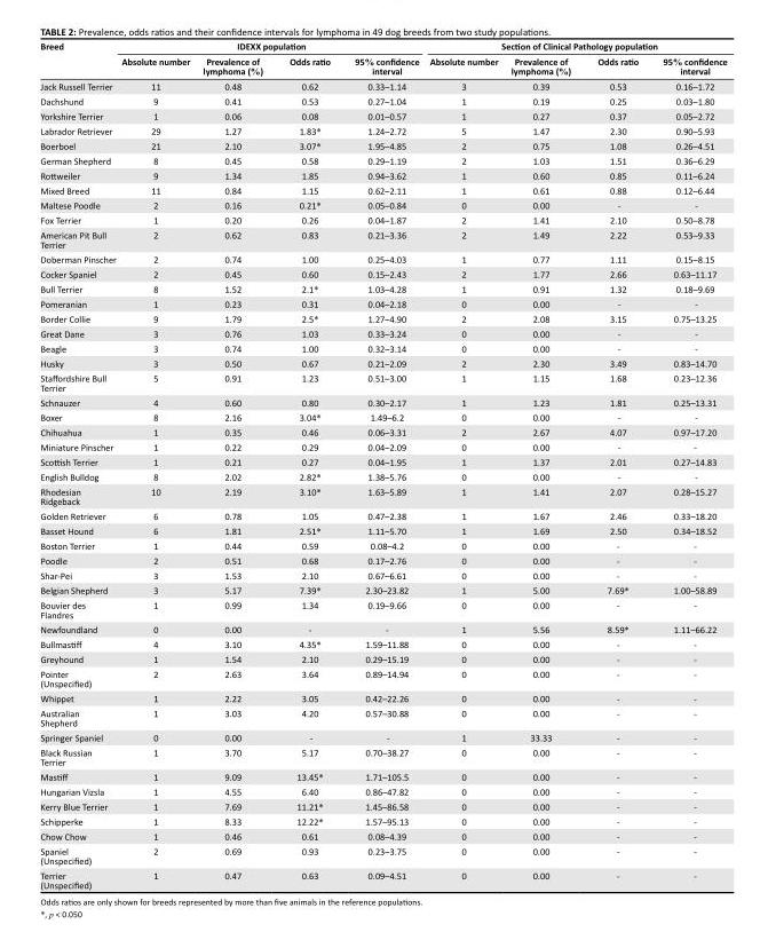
<table><thead><tr><td rowspan="2">Breed</td><td colspan="4">IDEXX population</td><td colspan="4">Section of Clinical Pathology population</td></tr><tr><td>Absolute number</td><td>Prevalence of lymphoma (%)</td><td>Odds ratio</td><td>95% confidence interval</td><td>Absolute number</td><td>Prevalence of lymphoma (%)</td><td>Odds ratio</td><td>95% confidence interval</td></tr></thead><tbody><tr><td>Jack Russell Terrier</td><td>11</td><td>0.48</td><td>0.62</td><td>0.33–1.14</td><td>3</td><td>0.39</td><td>0.53</td><td>0.16–1.72</td></tr><tr><td>Dachshund</td><td>9</td><td>0.41</td><td>0.53</td><td>0.27–1.04</td><td>1</td><td>0.19</td><td>0.25</td><td>0.03–1.80</td></tr><tr><td>Yorkshire Terrier</td><td>1</td><td>0.06</td><td>0.08</td><td>0.01–0.57</td><td>1</td><td>0.27</td><td>0.37</td><td>0.05–2.72</td></tr><tr><td>Labrador Retriever</td><td>29</td><td>1.27</td><td>1.83*</td><td>1.24–2.72</td><td>5</td><td>1.47</td><td>2.30</td><td>0.90–5.93</td></tr><tr><td>Boerboel</td><td>21</td><td>2.10</td><td>3.07*</td><td>1.95–4.85</td><td>2</td><td>0.75</td><td>1.08</td><td>0.26–4.51</td></tr><tr><td>German Shepherd</td><td>8</td><td>0.45</td><td>0.58</td><td>0.29–1.19</td><td>2</td><td>1.03</td><td>1.51</td><td>0.36–6.29</td></tr><tr><td>Rottweiler</td><td>9</td><td>1.34</td><td>1.85</td><td>0.94–3.62</td><td>1</td><td>0.60</td><td>0.85</td><td>0.11–6.24</td></tr><tr><td>Mixed Breed</td><td>11</td><td>0.84</td><td>1.15</td><td>0.62–2.11</td><td>1</td><td>0.61</td><td>0.88</td><td>0.12–6.44</td></tr><tr><td>Maltese Poodle</td><td>2</td><td>0.16</td><td>0.21*</td><td>0.05–0.84</td><td>0</td><td>0.00</td><td>-</td><td>-</td></tr><tr><td>Fox Terrier</td><td>1</td><td>0.20</td><td>0.26</td><td>0.04–1.87</td><td>2</td><td>1.41</td><td>2.10</td><td>0.50–8.78</td></tr><tr><td>American Pit Bull Terrier</td><td>2</td><td>0.62</td><td>0.83</td><td>0.21–3.36</td><td>2</td><td>1.49</td><td>2.22</td><td>0.53–9.33</td></tr><tr><td>Doberman Pinscher</td><td>2</td><td>0.74</td><td>1.00</td><td>0.25–4.03</td><td>1</td><td>0.77</td><td>1.11</td><td>0.15–8.15</td></tr><tr><td>Cocker Spaniel</td><td>2</td><td>0.45</td><td>0.60</td><td>0.15–2.43</td><td>2</td><td>1.77</td><td>2.66</td><td>0.63–11.17</td></tr><tr><td>Bull Terrier</td><td>8</td><td>1.52</td><td>2.1*</td><td>1.03–4.28</td><td>1</td><td>0.91</td><td>1.32</td><td>0.18–9.69</td></tr><tr><td>Pomeranian</td><td>1</td><td>0.23</td><td>0.31</td><td>0.04–2.18</td><td>0</td><td>0.00</td><td>-</td><td>-</td></tr><tr><td>Border Collie</td><td>9</td><td>1.79</td><td>2.5*</td><td>1.27–4.90</td><td>2</td><td>2.08</td><td>3.15</td><td>0.75–13.25</td></tr><tr><td>Great Dane</td><td>3</td><td>0.76</td><td>1.03</td><td>0.33–3.24</td><td>0</td><td>0.00</td><td>-</td><td>-</td></tr><tr><td>Beagle</td><td>3</td><td>0.74</td><td>1.00</td><td>0.32–3.14</td><td>0</td><td>0.00</td><td>-</td><td>-</td></tr><tr><td>Husky</td><td>3</td><td>0.50</td><td>0.67</td><td>0.21–2.09</td><td>2</td><td>2.30</td><td>3.49</td><td>0.83–14.70</td></tr><tr><td>Staffordshire Bull Terrier</td><td>5</td><td>0.91</td><td>1.23</td><td>0.51–3.00</td><td>1</td><td>1.15</td><td>1.68</td><td>0.23–12.36</td></tr><tr><td>Schnauzer</td><td>4</td><td>0.60</td><td>0.80</td><td>0.30–2.17</td><td>1</td><td>1.23</td><td>1.81</td><td>0.25–13.31</td></tr><tr><td>Boxer</td><td>8</td><td>2.16</td><td>3.04*</td><td>1.49–6.2</td><td>0</td><td>0.00</td><td>-</td><td>-</td></tr><tr><td>Chihuahua</td><td>1</td><td>0.35</td><td>0.46</td><td>0.06–3.31</td><td>2</td><td>2.67</td><td>4.07</td><td>0.97–17.20</td></tr><tr><td>Miniature Pinscher</td><td>1</td><td>0.22</td><td>0.29</td><td>0.04–2.09</td><td>0</td><td>0.00</td><td>-</td><td>-</td></tr><tr><td>Scottish Terrier</td><td>1</td><td>0.21</td><td>0.27</td><td>0.04–1.95</td><td>1</td><td>1.37</td><td>2.01</td><td>0.27–14.83</td></tr><tr><td>English Bulldog</td><td>8</td><td>2.02</td><td>2.82*</td><td>1.38–5.76</td><td>0</td><td>0.00</td><td>-</td><td>-</td></tr><tr><td>Rhodesian Ridgeback</td><td>10</td><td>2.19</td><td>3.10*</td><td>1.63–5.89</td><td>1</td><td>1.41</td><td>2.07</td><td>0.28–15.27</td></tr><tr><td>Golden Retriever</td><td>6</td><td>0.78</td><td>1.05</td><td>0.47–2.38</td><td>1</td><td>1.67</td><td>2.46</td><td>0.33–18.20</td></tr><tr><td>Basset Hound</td><td>6</td><td>1.81</td><td>2.51*</td><td>1.11–5.70</td><td>1</td><td>1.69</td><td>2.50</td><td>0.34–18.52</td></tr><tr><td>Boston Terrier</td><td>1</td><td>0.44</td><td>0.59</td><td>0.08–4.2</td><td>0</td><td>0.00</td><td>-</td><td>-</td></tr><tr><td>Poodle</td><td>2</td><td>0.51</td><td>0.68</td><td>0.17–2.76</td><td>0</td><td>0.00</td><td>-</td><td>-</td></tr><tr><td>Shar-Pei</td><td>3</td><td>1.53</td><td>2.10</td><td>0.67–6.61</td><td>0</td><td>0.00</td><td>-</td><td>-</td></tr><tr><td>Belgian Shepherd</td><td>3</td><td>5.17</td><td>7.39*</td><td>2.30–23.82</td><td>1</td><td>5.00</td><td>7.69*</td><td>1.00–58.89</td></tr><tr><td>Bouvier des Flandres</td><td>1</td><td>0.99</td><td>1.34</td><td>0.19–9.66</td><td>0</td><td>0.00</td><td>-</td><td>-</td></tr><tr><td>Newfoundland</td><td>0</td><td>0.00</td><td>-</td><td>-</td><td>1</td><td>5.56</td><td>8.59*</td><td>1.11–66.22</td></tr><tr><td>Bullmastiff</td><td>4</td><td>3.10</td><td>4.35*</td><td>1.59–11.88</td><td>0</td><td>0.00</td><td>-</td><td>-</td></tr><tr><td>Greyhound</td><td>1</td><td>1.54</td><td>2.10</td><td>0.29–15.19</td><td>0</td><td>0.00</td><td>-</td><td>-</td></tr><tr><td>Pointer (Unspecified)</td><td>2</td><td>2.63</td><td>3.64</td><td>0.89–14.94</td><td>0</td><td>0.00</td><td>-</td><td>-</td></tr><tr><td>Whippet</td><td>1</td><td>2.22</td><td>3.05</td><td>0.42–22.26</td><td>0</td><td>0.00</td><td>-</td><td>-</td></tr><tr><td>Australian Shepherd</td><td>1</td><td>3.03</td><td>4.20</td><td>0.57–30.88</td><td>0</td><td>0.00</td><td>-</td><td>-</td></tr><tr><td>Springer Spaniel</td><td>0</td><td>0.00</td><td>-</td><td>-</td><td>1</td><td>33.33</td><td>-</td><td>-</td></tr><tr><td>Black Russian Terrier</td><td>1</td><td>3.70</td><td>5.17</td><td>0.70–38.27</td><td>0</td><td>0.00</td><td>-</td><td>-</td></tr><tr><td>Mastiff</td><td>1</td><td>9.09</td><td>13.45*</td><td>1.71–105.5</td><td>0</td><td>0.00</td><td>-</td><td>-</td></tr><tr><td>Hungarian Vizsla</td><td>1</td><td>4.55</td><td>6.40</td><td>0.86–47.82</td><td>0</td><td>0.00</td><td>-</td><td>-</td></tr><tr><td>Kerry Blue Terrier</td><td>1</td><td>7.69</td><td>11.21*</td><td>1.45–86.58</td><td>0</td><td>0.00</td><td>-</td><td>-</td></tr><tr><td>Schipperke</td><td>1</td><td>8.33</td><td>12.22*</td><td>1.57–95.13</td><td>0</td><td>0.00</td><td>-</td><td>-</td></tr><tr><td>Chow Chow</td><td>1</td><td>0.46</td><td>0.61</td><td>0.08–4.39</td><td>0</td><td>0.00</td><td>-</td><td>-</td></tr><tr><td>Spaniel (Unspecified)</td><td>2</td><td>0.69</td><td>0.93</td><td>0.23–3.75</td><td>0</td><td>0.00</td><td>-</td><td>-</td></tr><tr><td>Terrier (Unspecified)</td><td>1</td><td>0.47</td><td>0.63</td><td>0.09–4.51</td><td>0</td><td>0.00</td><td>-</td><td>-</td></tr></tbody></table>